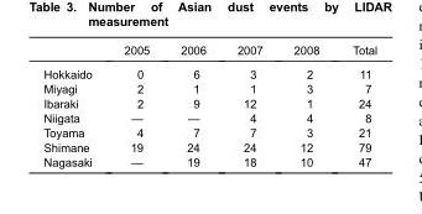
<table><thead><tr><td></td><td>2005</td><td>2006</td><td>2007</td><td>2008</td><td>Total</td></tr></thead><tbody><tr><td>Hokkaido</td><td>0</td><td>6</td><td>3</td><td>2</td><td>11</td></tr><tr><td>Miyagi</td><td>2</td><td>1</td><td>1</td><td>3</td><td>7</td></tr><tr><td>Ibaraki</td><td>2</td><td>9</td><td>12</td><td>1</td><td>24</td></tr><tr><td>Niigata</td><td>—</td><td>—</td><td>4</td><td>4</td><td>8</td></tr><tr><td>Toyama</td><td>4</td><td>7</td><td>7</td><td>3</td><td>21</td></tr><tr><td>Shimane</td><td>19</td><td>24</td><td>24</td><td>12</td><td>79</td></tr><tr><td>Nagasaki</td><td>—</td><td>19</td><td>18</td><td>10</td><td>47</td></tr></tbody></table>